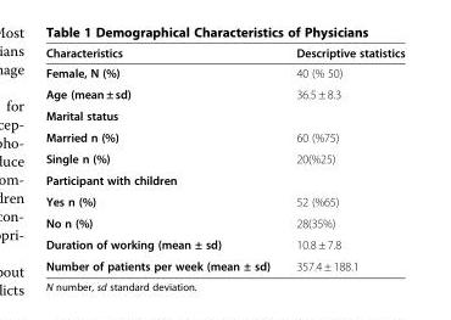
<table><thead><tr><td>Characteristics</td><td>Descriptive statistics</td></tr></thead><tbody><tr><td>Female, N (%)</td><td>40 (% 50)</td></tr><tr><td>Age (mean ± sd)</td><td>36.5 ± 8.3</td></tr><tr><td colspan="2">Marital status</td></tr><tr><td>Married n (%)</td><td>60 (%75)</td></tr><tr><td>Single n (%)</td><td>20(%25)</td></tr><tr><td colspan="2">Participant with children</td></tr><tr><td>Yes n (%)</td><td>52 (%65)</td></tr><tr><td>No n (%)</td><td>28(35%)</td></tr><tr><td>Duration of working (mean ± sd)</td><td>10.8 ± 7.8</td></tr><tr><td>Number of patients per week (mean ± sd)</td><td>357.4 ± 188.1</td></tr></tbody></table>